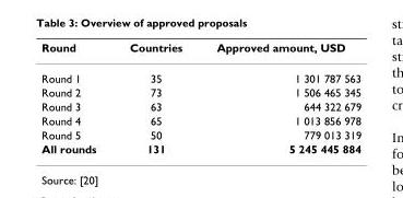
<table><thead><tr><td>Round</td><td>Countries</td><td>Approved amount, USD</td></tr></thead><tbody><tr><td>Round 1</td><td>35</td><td>1 301 787 563</td></tr><tr><td>Round 2</td><td>73</td><td>1 506 465 345</td></tr><tr><td>Round 3</td><td>63</td><td>644 322 679</td></tr><tr><td>Round 4</td><td>65</td><td>1 013 856 978</td></tr><tr><td>Round 5</td><td>50</td><td>779 013 319</td></tr><tr><td>All rounds</td><td>131</td><td>5 245 445 884</td></tr></tbody></table>